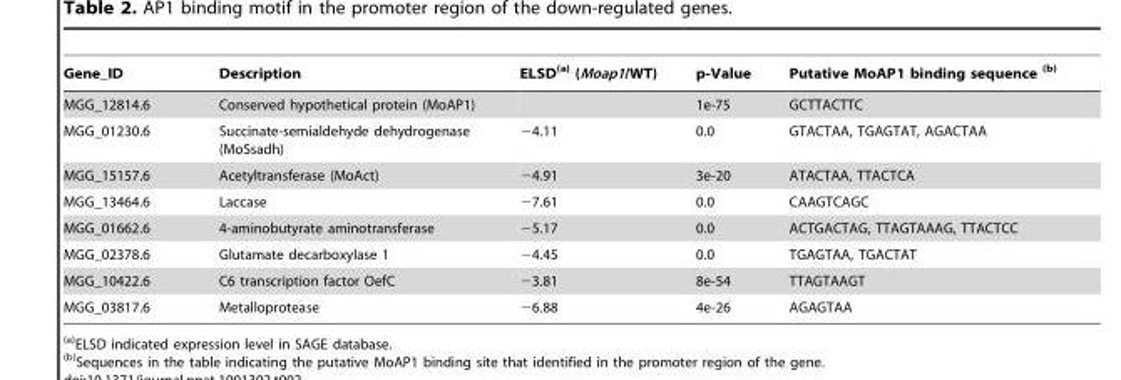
<table><thead><tr><td>Gene_ID</td><td>Description</td><td>ELSD(a) (Moap1/WT)</td><td>p-Value</td><td>Putative MoAP1 binding sequence (b)</td></tr></thead><tbody><tr><td>MGG_12814.6</td><td>Conserved hypothetical protein (MoAP1)</td><td></td><td>1e-75</td><td>GCTTACTTC</td></tr><tr><td>MGG_01230.6</td><td>Succinate-semialdehyde dehydrogenase (MoSsadh)</td><td>−4.11</td><td>0.0</td><td>GTACTAA, TGAGTAT, AGACTAA</td></tr><tr><td>MGG_15157.6</td><td>Acetyltransferase (MoAct)</td><td>−4.91</td><td>3e-20</td><td>ATACTAA, TTACTCA</td></tr><tr><td>MGG_13464.6</td><td>Laccase</td><td>−7.61</td><td>0.0</td><td>CAAGTCAGC</td></tr><tr><td>MGG_01662.6</td><td>4-aminobutyrate aminotransferase</td><td>−5.17</td><td>0.0</td><td>ACTGACTAG, TTAGTAAAG, TTACTCC</td></tr><tr><td>MGG_02378.6</td><td>Glutamate decarboxylase 1</td><td>−4.45</td><td>0.0</td><td>TGAGTAA, TGACTAT</td></tr><tr><td>MGG_10422.6</td><td>C6 transcription factor OefC</td><td>−3.81</td><td>8e-54</td><td>TTAGTAAGT</td></tr><tr><td>MGG_03817.6</td><td>Metalloprotease</td><td>−6.88</td><td>4e-26</td><td>AGAGTAA</td></tr></tbody></table>